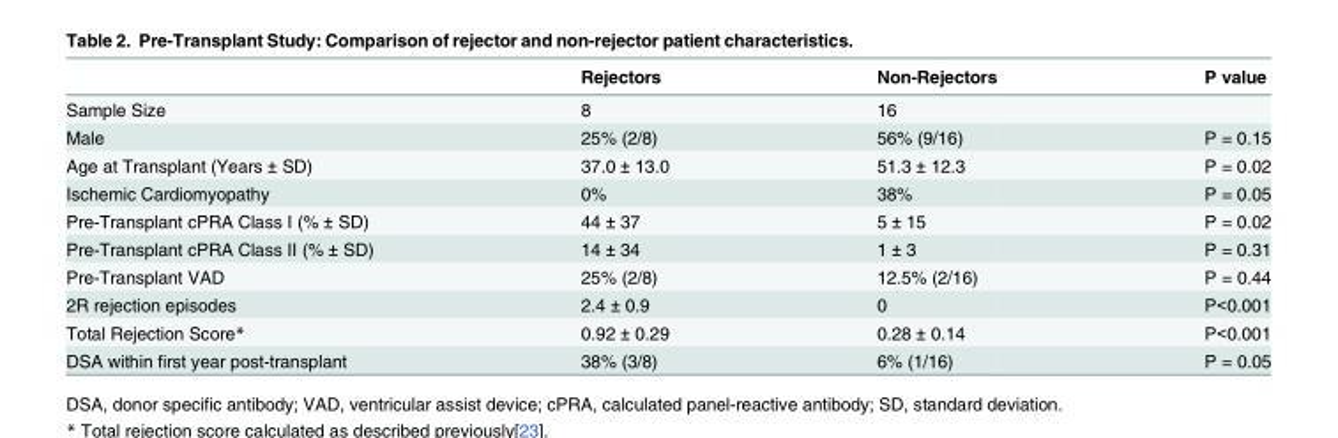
<table><thead><tr><td></td><td>Rejectors</td><td>Non-Rejectors</td><td>P value</td></tr></thead><tbody><tr><td>Sample Size</td><td>8</td><td>16</td><td></td></tr><tr><td>Male</td><td>25% (2/8)</td><td>56% (9/16)</td><td>P = 0.15</td></tr><tr><td>Age at Transplant (Years ± SD)</td><td>37.0 ± 13.0</td><td>51.3 ± 12.3</td><td>P = 0.02</td></tr><tr><td>Ischemic Cardiomyopathy</td><td>0%</td><td>38%</td><td>P = 0.05</td></tr><tr><td>Pre-Transplant cPRA Class I (% ± SD)</td><td>44 ± 37</td><td>5 ± 15</td><td>P = 0.02</td></tr><tr><td>Pre-Transplant cPRA Class II (% ± SD)</td><td>14 ± 34</td><td>1 ± 3</td><td>P = 0.31</td></tr><tr><td>Pre-Transplant VAD</td><td>25% (2/8)</td><td>12.5% (2/16)</td><td>P = 0.44</td></tr><tr><td>2R rejection episodes</td><td>2.4 ± 0.9</td><td>0</td><td>P&lt;0.001</td></tr><tr><td>Total Rejection Score*</td><td>0.92 ± 0.29</td><td>0.28 ± 0.14</td><td>P&lt;0.001</td></tr><tr><td>DSA within first year post-transplant</td><td>38% (3/8)</td><td>6% (1/16)</td><td>P = 0.05</td></tr></tbody></table>